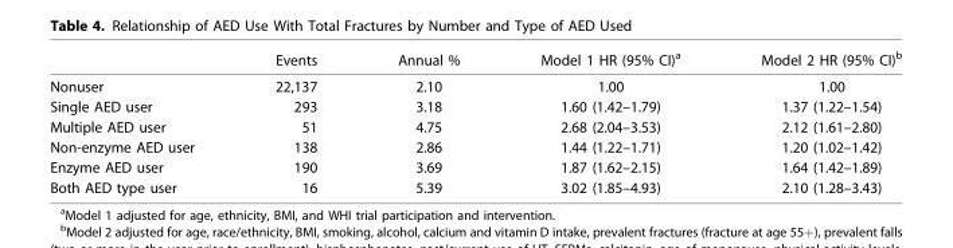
<table><thead><tr><td></td><td>Events</td><td>Annual %</td><td>Model 1 HR (95% CI)<sup>a</sup></td><td>Model 2 HR (95% CI)<sup>b</sup></td></tr></thead><tbody><tr><td>Nonuser</td><td>22,137</td><td>2.10</td><td>1.00</td><td>1.00</td></tr><tr><td>Single AED user</td><td>293</td><td>3.18</td><td>1.60 (1.42–1.79)</td><td>1.37 (1.22–1.54)</td></tr><tr><td>Multiple AED user</td><td>51</td><td>4.75</td><td>2.68 (2.04–3.53)</td><td>2.12 (1.61–2.80)</td></tr><tr><td>Non-enzyme AED user</td><td>138</td><td>2.86</td><td>1.44 (1.22–1.71)</td><td>1.20 (1.02–1.42)</td></tr><tr><td>Enzyme AED user</td><td>190</td><td>3.69</td><td>1.87 (1.62–2.15)</td><td>1.64 (1.42–1.89)</td></tr><tr><td>Both AED type user</td><td>16</td><td>5.39</td><td>3.02 (1.85–4.93)</td><td>2.10 (1.28–3.43)</td></tr></tbody></table>